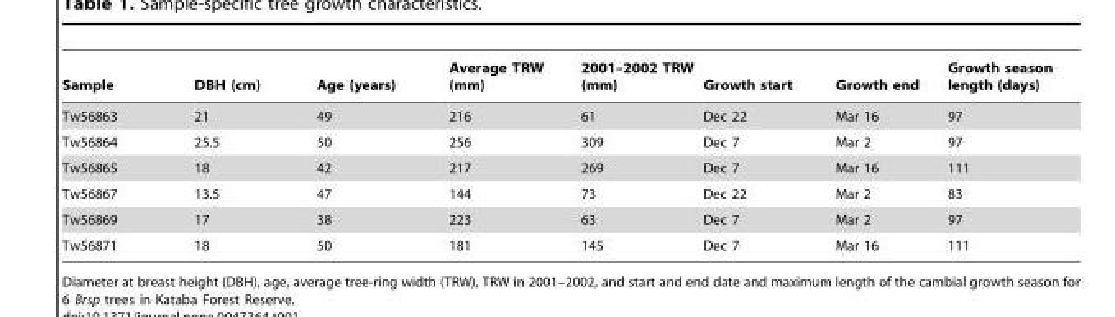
<table><thead><tr><td>Sample</td><td>DBH (cm)</td><td>Age (years)</td><td>Average TRW (mm)</td><td>2001–2002 TRW (mm)</td><td>Growth start</td><td>Growth end</td><td>Growth season length (days)</td></tr></thead><tbody><tr><td>Tw56863</td><td>21</td><td>49</td><td>216</td><td>61</td><td>Dec 22</td><td>Mar 16</td><td>97</td></tr><tr><td>Tw56864</td><td>25.5</td><td>50</td><td>256</td><td>309</td><td>Dec 7</td><td>Mar 2</td><td>97</td></tr><tr><td>Tw56865</td><td>18</td><td>42</td><td>217</td><td>269</td><td>Dec 7</td><td>Mar 16</td><td>111</td></tr><tr><td>Tw56867</td><td>13.5</td><td>47</td><td>144</td><td>73</td><td>Dec 22</td><td>Mar 2</td><td>83</td></tr><tr><td>Tw56869</td><td>17</td><td>38</td><td>223</td><td>63</td><td>Dec 7</td><td>Mar 2</td><td>97</td></tr><tr><td>Tw56871</td><td>18</td><td>50</td><td>181</td><td>145</td><td>Dec 7</td><td>Mar 16</td><td>111</td></tr></tbody></table>